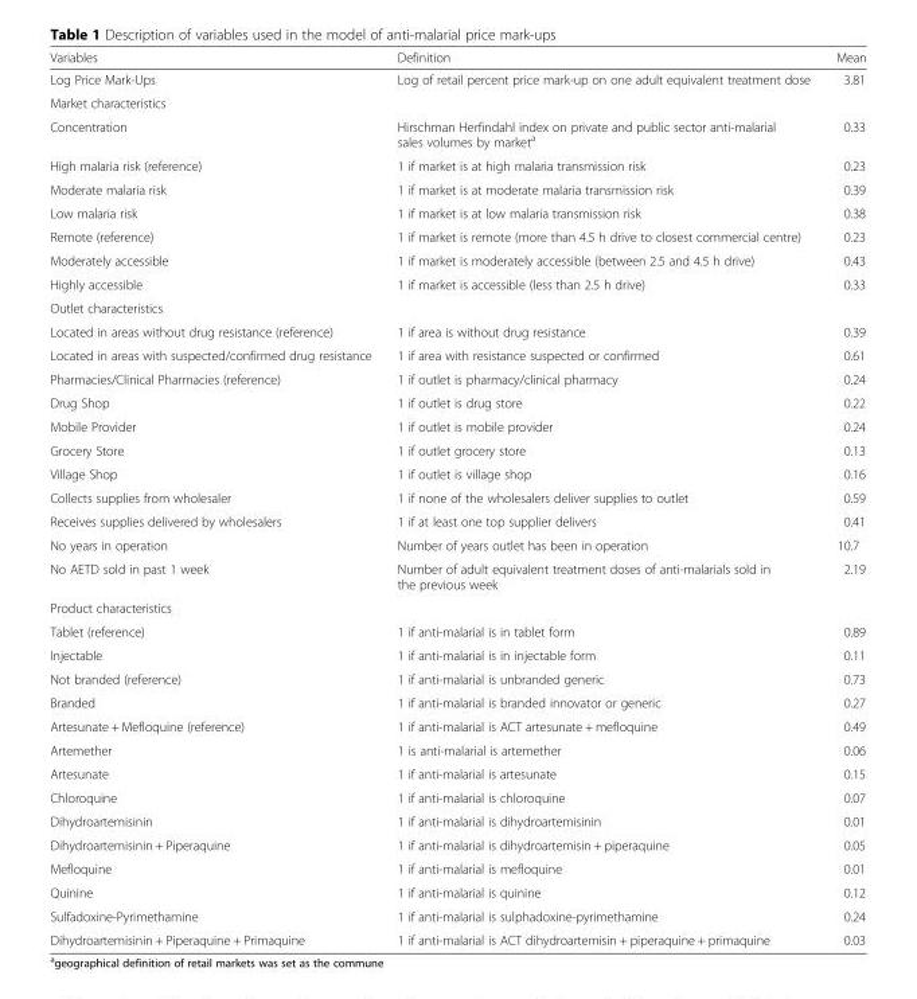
<table><thead><tr><td>Variables</td><td>Definition</td><td>Mean</td></tr></thead><tbody><tr><td>Log Price Mark-Ups</td><td>Log of retail percent price mark-up on one adult equivalent treatment dose</td><td>3.81</td></tr><tr><td colspan="3">Market characteristics</td></tr><tr><td>Concentration</td><td>Hirschman Herfindahl index on private and public sector anti-malarial sales volumes by market<sup>a</sup></td><td>0.33</td></tr><tr><td>High malaria risk (reference)</td><td>1 if market is at high malaria transmission risk</td><td>0.23</td></tr><tr><td>Moderate malaria risk</td><td>1 if market is at moderate malaria transmission risk</td><td>0.39</td></tr><tr><td>Low malaria risk</td><td>1 if market is at low malaria transmission risk</td><td>0.38</td></tr><tr><td>Remote (reference)</td><td>1 if market is remote (more than 4.5 h drive to closest commercial centre)</td><td>0.23</td></tr><tr><td>Moderately accessible</td><td>1 if market is moderately accessible (between 2.5 and 4.5 h drive)</td><td>0.43</td></tr><tr><td>Highly accessible</td><td>1 if market is accessible (less than 2.5 h drive)</td><td>0.33</td></tr><tr><td colspan="3">Outlet characteristics</td></tr><tr><td>Located in areas without drug resistance (reference)</td><td>1 if area is without drug resistance</td><td>0.39</td></tr><tr><td>Located in areas with suspected/confirmed drug resistance</td><td>1 if area with resistance suspected or confirmed</td><td>0.61</td></tr><tr><td>Pharmacies/Clinical Pharmacies (reference)</td><td>1 if outlet is pharmacy/clinical pharmacy</td><td>0.24</td></tr><tr><td>Drug Shop</td><td>1 if outlet is drug store</td><td>0.22</td></tr><tr><td>Mobile Provider</td><td>1 if outlet is mobile provider</td><td>0.24</td></tr><tr><td>Grocery Store</td><td>1 if outlet grocery store</td><td>0.13</td></tr><tr><td>Village Shop</td><td>1 if outlet is village shop</td><td>0.16</td></tr><tr><td>Collects supplies from wholesaler</td><td>1 if none of the wholesalers deliver supplies to outlet</td><td>0.59</td></tr><tr><td>Receives supplies delivered by wholesalers</td><td>1 if at least one top supplier delivers</td><td>0.41</td></tr><tr><td>No years in operation</td><td>Number of years outlet has been in operation</td><td>10.7</td></tr><tr><td>No AETD sold in past 1 week</td><td>Number of adult equivalent treatment doses of anti-malarials sold in the previous week</td><td>2.19</td></tr><tr><td colspan="3">Product characteristics</td></tr><tr><td>Tablet (reference)</td><td>1 if anti-malarial is in tablet form</td><td>0.89</td></tr><tr><td>Injectable</td><td>1 if anti-malarial is in injectable form</td><td>0.11</td></tr><tr><td>Not branded (reference)</td><td>1 if anti-malarial is unbranded generic</td><td>0.73</td></tr><tr><td>Branded</td><td>1 if anti-malarial is branded innovator or generic</td><td>0.27</td></tr><tr><td>Artesunate + Mefloquine (reference)</td><td>1 if anti-malarial is ACT artesunate + mefloquine</td><td>0.49</td></tr><tr><td>Artemether</td><td>1 is anti-malarial is artemether</td><td>0.06</td></tr><tr><td>Artesunate</td><td>1 if anti-malarial is artesunate</td><td>0.15</td></tr><tr><td>Chloroquine</td><td>1 if anti-malarial is chloroquine</td><td>0.07</td></tr><tr><td>Dihydroartemisinin</td><td>1 if anti-malarial is dihydroartemisinin</td><td>0.01</td></tr><tr><td>Dihydroartemisinin + Piperaquine</td><td>1 if anti-malarial is dihydroartemisin + piperaquine</td><td>0.05</td></tr><tr><td>Mefloquine</td><td>1 if anti-malarial is mefloquine</td><td>0.01</td></tr><tr><td>Quinine</td><td>1 if anti-malarial is quinine</td><td>0.12</td></tr><tr><td>Sulfadoxine-Pyrimethamine</td><td>1 if anti-malarial is sulphadoxine-pyrimethamine</td><td>0.24</td></tr><tr><td>Dihydroartemisinin + Piperaquine + Primaquine</td><td>1 if anti-malarial is ACT dihydroartemisin + piperaquine + primaquine</td><td>0.03</td></tr></tbody></table>